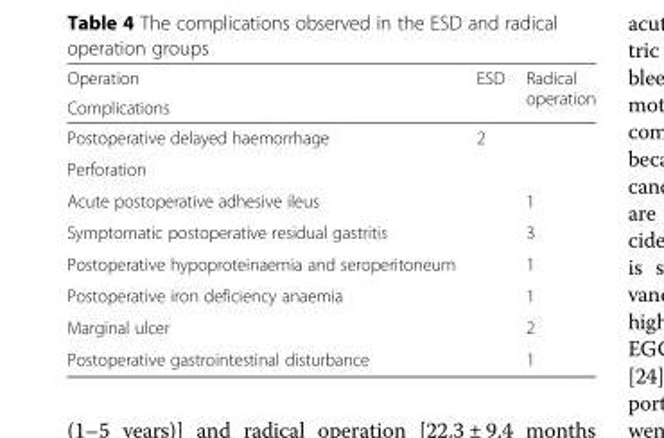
<table><thead><tr><td rowspan="2">Operation Complications</td><td rowspan="2">ESD</td><td rowspan="2">Radical operation</td></tr><tr></tr></thead><tbody><tr><td>Postoperative delayed haemorrhage</td><td>2</td><td></td></tr><tr><td colspan="3">Perforation</td></tr><tr><td>Acute postoperative adhesive ileus</td><td></td><td>1</td></tr><tr><td>Symptomatic postoperative residual gastritis</td><td></td><td>3</td></tr><tr><td>Postoperative hypoproteinaemia and seroperitoneum</td><td></td><td>1</td></tr><tr><td>Postoperative iron deficiency anaemia</td><td></td><td>1</td></tr><tr><td>Marginal ulcer</td><td></td><td>2</td></tr><tr><td>Postoperative gastrointestinal disturbance</td><td></td><td>1</td></tr></tbody></table>